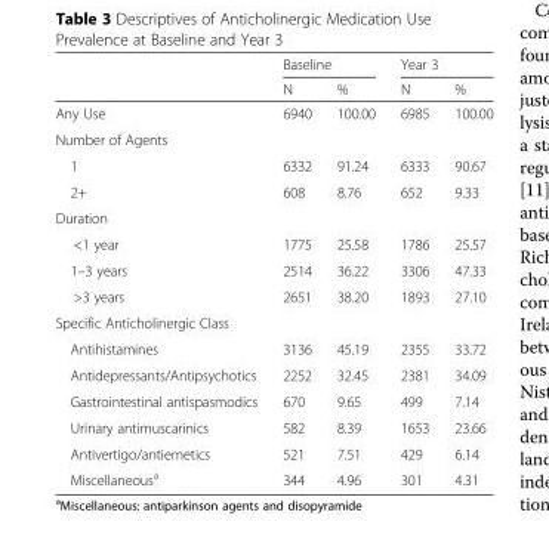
<table><thead><tr><td rowspan="2"></td><td colspan="2">Baseline</td><td colspan="2">Year 3</td></tr><tr><td>N</td><td>%</td><td>N</td><td>%</td></tr></thead><tbody><tr><td>Any Use</td><td>6940</td><td>100.00</td><td>6985</td><td>100.00</td></tr><tr><td colspan="5">Number of Agents</td></tr><tr><td>1</td><td>6332</td><td>91.24</td><td>6333</td><td>90.67</td></tr><tr><td>2+</td><td>608</td><td>8.76</td><td>652</td><td>9.33</td></tr><tr><td colspan="5">Duration</td></tr><tr><td>&lt;1 year</td><td>1775</td><td>25.58</td><td>1786</td><td>25.57</td></tr><tr><td>1–3 years</td><td>2514</td><td>36.22</td><td>3306</td><td>47.33</td></tr><tr><td>&gt;3 years</td><td>2651</td><td>38.20</td><td>1893</td><td>27.10</td></tr><tr><td colspan="5">Specific Anticholinergic Class</td></tr><tr><td>Antihistamines</td><td>3136</td><td>45.19</td><td>2355</td><td>33.72</td></tr><tr><td>Antidepressants/Antipsychotics</td><td>2252</td><td>32.45</td><td>2381</td><td>34.09</td></tr><tr><td>Gastrointestinal antispasmodics</td><td>670</td><td>9.65</td><td>499</td><td>7.14</td></tr><tr><td>Urinary antimuscarinics</td><td>582</td><td>8.39</td><td>1653</td><td>23.66</td></tr><tr><td>Antivertigo/antiemetics</td><td>521</td><td>7.51</td><td>429</td><td>6.14</td></tr><tr><td>Miscellaneous<sup>a</sup></td><td>344</td><td>4.96</td><td>301</td><td>4.31</td></tr></tbody></table>